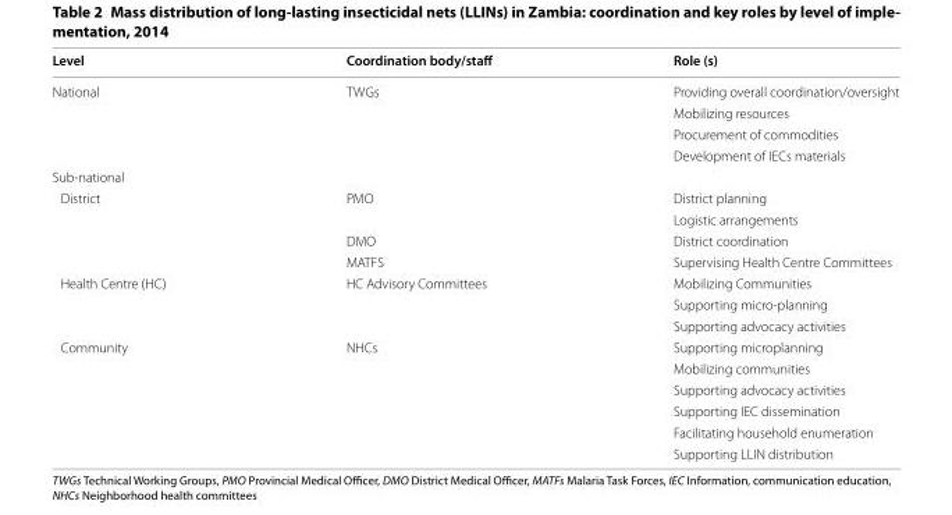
<table><thead><tr><td>Level</td><td>Coordination body/staff</td><td>Role (s)</td></tr></thead><tbody><tr><td rowspan="4">National</td><td rowspan="4">TWGs</td><td>Providing overall coordination/oversight</td></tr><tr><td>Mobilizing resources</td></tr><tr><td>Procurement of commodities</td></tr><tr><td>Development of IECs materials</td></tr><tr><td colspan="3">Sub‑national</td></tr><tr><td rowspan="4">District</td><td rowspan="2">PMO</td><td>District planning</td></tr><tr><td>Logistic arrangements</td></tr><tr><td>DMO</td><td>District coordination</td></tr><tr><td>MATFS</td><td>Supervising Health Centre Committees</td></tr><tr><td rowspan="3">Health Centre (HC)</td><td rowspan="3">HC Advisory Committees</td><td>Mobilizing Communities</td></tr><tr><td>Supporting micro‑planning</td></tr><tr><td>Supporting advocacy activities</td></tr><tr><td rowspan="6">Community</td><td rowspan="6">NHCs</td><td>Supporting microplanning</td></tr><tr><td>Mobilizing communities</td></tr><tr><td>Supporting advocacy activities</td></tr><tr><td>Supporting IEC dissemination</td></tr><tr><td>Facilitating household enumeration</td></tr><tr><td>Supporting LLIN distribution</td></tr></tbody></table>